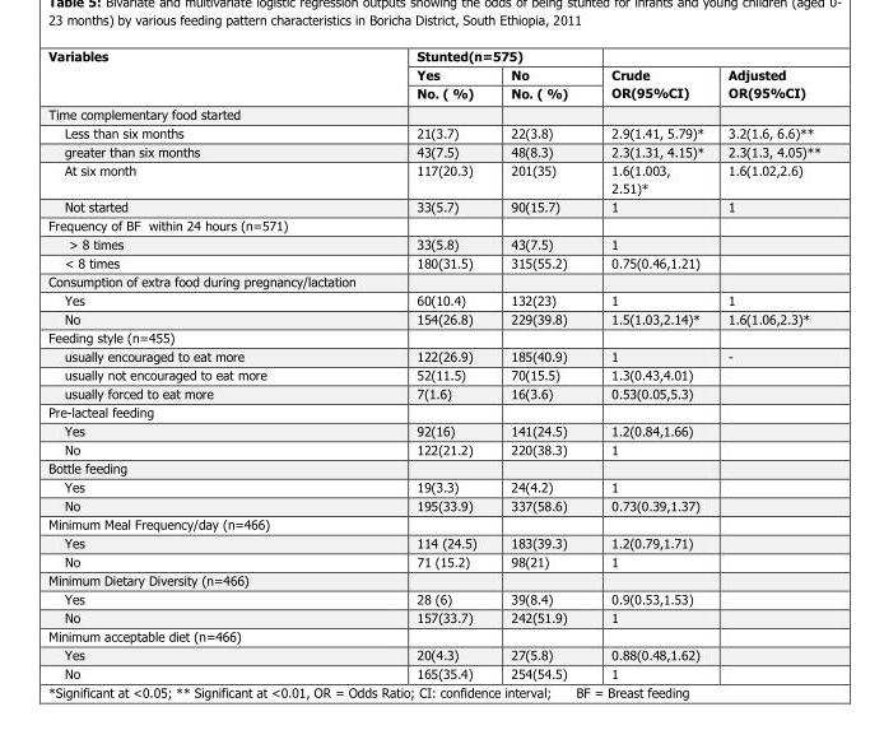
<table><thead><tr><td rowspan="3">Variables</td><td colspan="2">Stunted(n=575)</td><td rowspan="3">Crude OR(95%CI)</td><td rowspan="3">Adjusted OR(95%CI)</td></tr><tr><td rowspan="2">Yes No. ( %)</td><td rowspan="2">No No. ( %)</td></tr><tr></tr></thead><tbody><tr><td colspan="5">Time complementary food started</td></tr><tr><td>Less than six months</td><td>21(3.7)</td><td>22(3.8)</td><td>2.9(1.41, 5.79)*</td><td>3.2(1.6, 6.6)**</td></tr><tr><td>greater than six months</td><td>43(7.5)</td><td>48(8.3)</td><td>2.3(1.31, 4.15)*</td><td>2.3(1.3, 4.05)**</td></tr><tr><td>At six month</td><td>117(20.3)</td><td>201(35)</td><td>1.6(1.003, 2.51)*</td><td>1.6(1.02,2.6)</td></tr><tr><td>Not started</td><td>33(5.7)</td><td>90(15.7)</td><td>1</td><td>1</td></tr><tr><td colspan="5">Frequency of BF within 24 hours (n=571)</td></tr><tr><td>&gt; 8 times</td><td>33(5.8)</td><td>43(7.5)</td><td>1</td><td></td></tr><tr><td>&lt; 8 times</td><td>180(31.5)</td><td>315(55.2)</td><td>0.75(0.46,1.21)</td><td></td></tr><tr><td colspan="5">Consumption of extra food during pregnancy/lactation</td></tr><tr><td>Yes</td><td>60(10.4)</td><td>132(23)</td><td>1</td><td>1</td></tr><tr><td>No</td><td>154(26.8)</td><td>229(39.8)</td><td>1.5(1.03,2.14)*</td><td>1.6(1.06,2.3)*</td></tr><tr><td colspan="5">Feeding style (n=455)</td></tr><tr><td>usually encouraged to eat more</td><td>122(26.9)</td><td>185(40.9)</td><td>1</td><td>-</td></tr><tr><td>usually not encouraged to eat more</td><td>52(11.5)</td><td>70(15.5)</td><td>1.3(0.43,4.01)</td><td></td></tr><tr><td>usually forced to eat more</td><td>7(1.6)</td><td>16(3.6)</td><td>0.53(0.05,5.3)</td><td></td></tr><tr><td colspan="5">Pre-lacteal feeding</td></tr><tr><td>Yes</td><td>92(16)</td><td>141(24.5)</td><td>1.2(0.84,1.66)</td><td></td></tr><tr><td>No</td><td>122(21.2)</td><td>220(38.3)</td><td>1</td><td></td></tr><tr><td colspan="5">Bottle feeding</td></tr><tr><td>Yes</td><td>19(3.3)</td><td>24(4.2)</td><td>1</td><td></td></tr><tr><td>No</td><td>195(33.9)</td><td>337(58.6)</td><td>0.73(0.39,1.37)</td><td></td></tr><tr><td colspan="5">Minimum Meal Frequency/day (n=466)</td></tr><tr><td>Yes</td><td>114 (24.5)</td><td>183(39.3)</td><td>1.2(0.79,1.71)</td><td></td></tr><tr><td>No</td><td>71 (15.2)</td><td>98(21)</td><td>1</td><td></td></tr><tr><td colspan="5">Minimum Dietary Diversity (n=466)</td></tr><tr><td>Yes</td><td>28 (6)</td><td>39(8.4)</td><td>0.9(0.53,1.53)</td><td></td></tr><tr><td>No</td><td>157(33.7)</td><td>242(51.9)</td><td>1</td><td></td></tr><tr><td colspan="5">Minimum acceptable diet (n=466)</td></tr><tr><td>Yes</td><td>20(4.3)</td><td>27(5.8)</td><td>0.88(0.48,1.62)</td><td></td></tr><tr><td>No</td><td>165(35.4)</td><td>254(54.5)</td><td>1</td><td></td></tr></tbody></table>